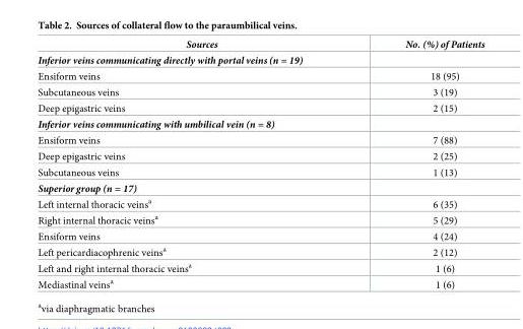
<table><thead><tr><td>Sources</td><td>No. (%) of Patients</td></tr></thead><tbody><tr><td colspan="2">Inferior veins communicating directly with portal veins (n = 19)</td></tr><tr><td>Ensiform veins</td><td>18 (95)</td></tr><tr><td>Subcutaneous veins</td><td>3 (19)</td></tr><tr><td>Deep epigastric veins</td><td>2 (15)</td></tr><tr><td colspan="2">Inferior veins communicating with umbilical vein (n = 8)</td></tr><tr><td>Ensiform veins</td><td>7 (88)</td></tr><tr><td>Deep epigastric veins</td><td>2 (25)</td></tr><tr><td>Subcutaneous veins</td><td>1 (13)</td></tr><tr><td colspan="2">Superior group (n = 17)</td></tr><tr><td>Left internal thoracic veins<sup>a</sup></td><td>6 (35)</td></tr><tr><td>Right internal thoracic veins<sup>a</sup></td><td>5 (29)</td></tr><tr><td>Ensiform veins</td><td>4 (24)</td></tr><tr><td>Left pericardiacophrenic veins<sup>a</sup></td><td>2 (12)</td></tr><tr><td>Left and right internal thoracic veins<sup>a</sup></td><td>1 (6)</td></tr><tr><td>Mediastinal veins<sup>a</sup></td><td>1 (6)</td></tr></tbody></table>